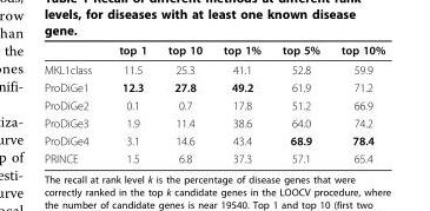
<table><thead><tr><td></td><td>top 1</td><td>top 10</td><td>top 1%</td><td>top 5%</td><td>top 10%</td></tr></thead><tbody><tr><td>MKL1class</td><td>11.5</td><td>25.3</td><td>41.1</td><td>52.8</td><td>59.9</td></tr><tr><td>ProDiGe1</td><td>12.3</td><td>27.8</td><td>49.2</td><td>61.9</td><td>71.2</td></tr><tr><td>ProDiGe2</td><td>0.1</td><td>0.7</td><td>17.8</td><td>51.2</td><td>66.9</td></tr><tr><td>ProDiGe3</td><td>1.9</td><td>11.4</td><td>38.6</td><td>64.0</td><td>74.2</td></tr><tr><td>ProDiGe4</td><td>3.1</td><td>14.6</td><td>43.4</td><td>68.9</td><td>78.4</td></tr><tr><td>PRINCE</td><td>1.5</td><td>6.8</td><td>37.3</td><td>57.1</td><td>65.4</td></tr></tbody></table>